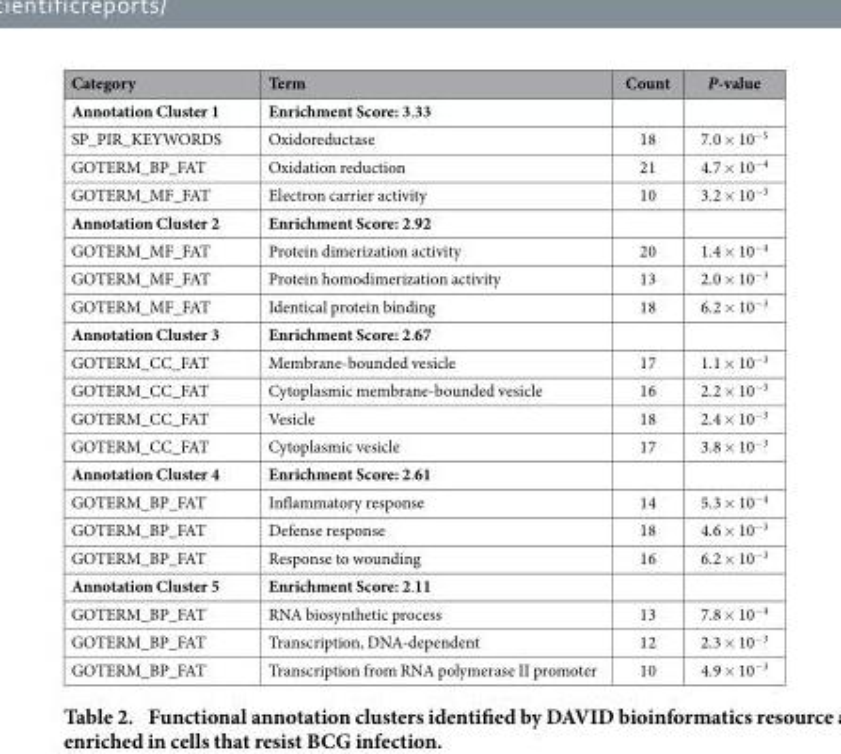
<table><thead><tr><td>Category</td><td>Term</td><td>Count</td><td>P-value</td></tr></thead><tbody><tr><td>Annotation Cluster 1</td><td>Enrichment Score: 3.33</td><td></td><td></td></tr><tr><td>SP_PIR_KEYWORDS</td><td>Oxidoreductase</td><td>18</td><td>7.0 × 10<sup>−5</sup></td></tr><tr><td>GOTERM_BP_FAT</td><td>Oxidation reduction</td><td>21</td><td>4.7 × 10<sup>−4</sup></td></tr><tr><td>GOTERM_MF_FAT</td><td>Electron carrier activity</td><td>10</td><td>3.2 × 10<sup>−3</sup></td></tr><tr><td>Annotation Cluster 2</td><td>Enrichment Score: 2.92</td><td></td><td></td></tr><tr><td>GOTERM_MF_FAT</td><td>Protein dimerization activity</td><td>20</td><td>1.4 × 10<sup>−4</sup></td></tr><tr><td>GOTERM_MF_FAT</td><td>Protein homodimerization activity</td><td>13</td><td>2.0 × 10<sup>−3</sup></td></tr><tr><td>GOTERM_MF_FAT</td><td>Identical protein binding</td><td>18</td><td>6.2 × 10<sup>−3</sup></td></tr><tr><td>Annotation Cluster 3</td><td>Enrichment Score: 2.67</td><td></td><td></td></tr><tr><td>GOTERM_CC_FAT</td><td>Membrane-bounded vesicle</td><td>17</td><td>1.1 × 10<sup>−3</sup></td></tr><tr><td>GOTERM_CC_FAT</td><td>Cytoplasmic membrane-bounded vesicle</td><td>16</td><td>2.2 × 10<sup>−3</sup></td></tr><tr><td>GOTERM_CC_FAT</td><td>Vesicle</td><td>18</td><td>2.4 × 10<sup>−3</sup></td></tr><tr><td>GOTERM_CC_FAT</td><td>Cytoplasmic vesicle</td><td>17</td><td>3.8 × 10<sup>−3</sup></td></tr><tr><td>Annotation Cluster 4</td><td>Enrichment Score: 2.61</td><td></td><td></td></tr><tr><td>GOTERM_BP_FAT</td><td>Inflammatory response</td><td>14</td><td>5.3 × 10<sup>−4</sup></td></tr><tr><td>GOTERM_BP_FAT</td><td>Defense response</td><td>18</td><td>4.6 × 10<sup>−3</sup></td></tr><tr><td>GOTERM_BP_FAT</td><td>Response to wounding</td><td>16</td><td>6.2 × 10<sup>−3</sup></td></tr><tr><td>Annotation Cluster 5</td><td>Enrichment Score: 2.11</td><td></td><td></td></tr><tr><td>GOTERM_BP_FAT</td><td>RNA biosynthetic process</td><td>13</td><td>7.8 × 10<sup>−4</sup></td></tr><tr><td>GOTERM_BP_FAT</td><td>Transcription, DNA-dependent</td><td>12</td><td>2.3 × 10<sup>−3</sup></td></tr><tr><td>GOTERM_BP_FAT</td><td>Transcription from RNA polymerase II promoter</td><td>10</td><td>4.9 × 10<sup>−3</sup></td></tr></tbody></table>